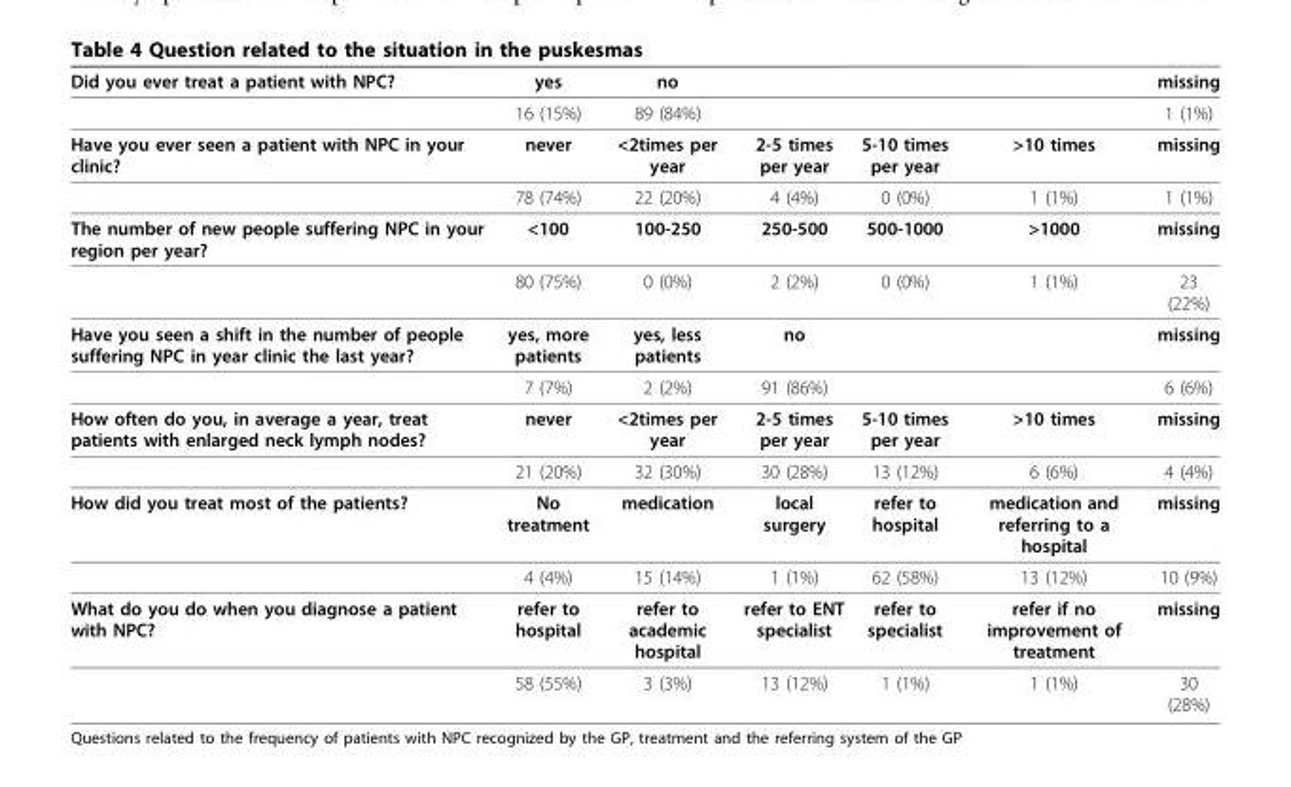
<table><thead><tr><td>Did you ever treat a patient with NPC?</td><td>yes</td><td>no</td><td></td><td></td><td></td><td>missing</td></tr></thead><tbody><tr><td></td><td>16 (15%)</td><td>89 (84%)</td><td></td><td></td><td></td><td>1 (1%)</td></tr><tr><td rowspan="2">Have you ever seen a patient with NPC in your clinic?</td><td>never</td><td>&lt;2times per year</td><td>2-5 times per year</td><td>5-10 times per year</td><td>&gt;10 times</td><td>missing</td></tr><tr><td>78 (74%)</td><td>22 (20%)</td><td>4 (4%)</td><td>0 (0%)</td><td>1 (1%)</td><td>1 (1%)</td></tr><tr><td rowspan="2">The number of new people suffering NPC in your region per year?</td><td>&lt;100</td><td>100-250</td><td>250-500</td><td>500-1000</td><td>&gt;1000</td><td>missing</td></tr><tr><td>80 (75%)</td><td>0 (0%)</td><td>2 (2%)</td><td>0 (0%)</td><td>1 (1%)</td><td>23 (22%)</td></tr><tr><td rowspan="2">Have you seen a shift in the number of people suffering NPC in year clinic the last year?</td><td>yes, more patients</td><td>yes, less patients</td><td>no</td><td></td><td></td><td>missing</td></tr><tr><td>7 (7%)</td><td>2 (2%)</td><td>91 (86%)</td><td></td><td></td><td>6 (6%)</td></tr><tr><td rowspan="2">How often do you, in average a year, treat patients with enlarged neck lymph nodes?</td><td>never</td><td>&lt;2times per year</td><td>2-5 times per year</td><td>5-10 times per year</td><td>&gt;10 times</td><td>missing</td></tr><tr><td>21 (20%)</td><td>32 (30%)</td><td>30 (28%)</td><td>13 (12%)</td><td>6 (6%)</td><td>4 (4%)</td></tr><tr><td rowspan="2">How did you treat most of the patients?</td><td>No treatment</td><td>medication</td><td>local surgery</td><td>refer to hospital</td><td>medication and referring to a hospital</td><td>missing</td></tr><tr><td>4 (4%)</td><td>15 (14%)</td><td>1 (1%)</td><td>62 (58%)</td><td>13 (12%)</td><td>10 (9%)</td></tr><tr><td rowspan="2">What do you do when you diagnose a patient with NPC?</td><td>refer to hospital</td><td>refer to academic hospital</td><td>refer to ENT specialist</td><td>refer to specialist</td><td>refer if no improvement of treatment</td><td>missing</td></tr><tr><td>58 (55%)</td><td>3 (3%)</td><td>13 (12%)</td><td>1 (1%)</td><td>1 (1%)</td><td>30 (28%)</td></tr></tbody></table>